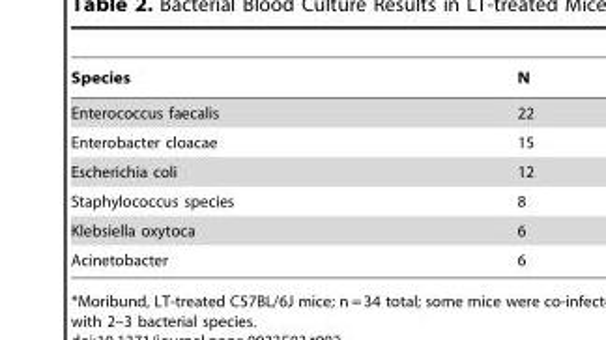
<table><thead><tr><td>Species</td><td>N</td></tr></thead><tbody><tr><td>Enterococcus faecalis</td><td>22</td></tr><tr><td>Enterobacter cloacae</td><td>15</td></tr><tr><td>Escherichia coli</td><td>12</td></tr><tr><td>Staphylococcus species</td><td>8</td></tr><tr><td>Klebsiella oxytoca</td><td>6</td></tr><tr><td>Acinetobacter</td><td>6</td></tr></tbody></table>